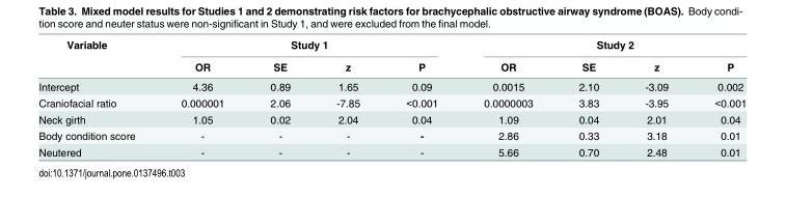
<table><thead><tr><td rowspan="2">Variable</td><td colspan="4">Study 1</td><td colspan="4">Study 2</td></tr><tr><td>OR</td><td>SE</td><td>z</td><td>P</td><td>OR</td><td>SE</td><td>z</td><td>P</td></tr></thead><tbody><tr><td>Intercept</td><td>4.36</td><td>0.89</td><td>1.65</td><td>0.09</td><td>0.0015</td><td>2.10</td><td>-3.09</td><td>0.002</td></tr><tr><td>Craniofacial ratio</td><td>0.000001</td><td>2.06</td><td>-7.85</td><td>&lt;0.001</td><td>0.0000003</td><td>3.83</td><td>-3.95</td><td>&lt;0.001</td></tr><tr><td>Neck girth</td><td>1.05</td><td>0.02</td><td>2.04</td><td>0.04</td><td>1.09</td><td>0.04</td><td>2.01</td><td>0.04</td></tr><tr><td>Body condition score</td><td>-</td><td>-</td><td>-</td><td>-</td><td>2.86</td><td>0.33</td><td>3.18</td><td>0.01</td></tr><tr><td>Neutered</td><td>-</td><td>-</td><td>-</td><td>-</td><td>5.66</td><td>0.70</td><td>2.48</td><td>0.01</td></tr></tbody></table>